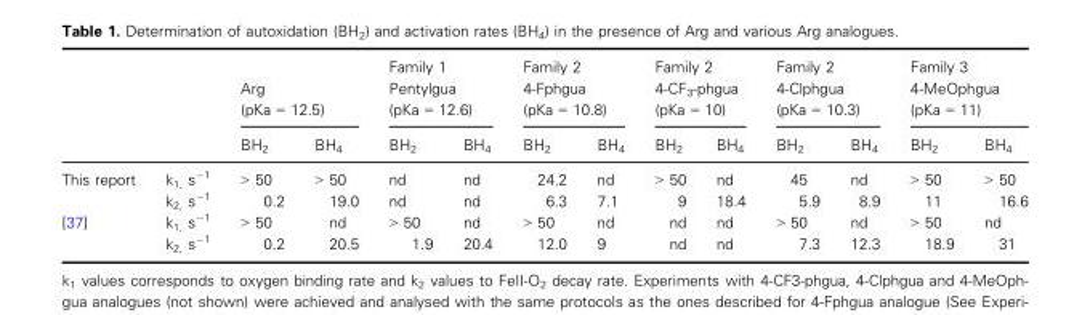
<table><thead><tr><td rowspan="2"></td><td rowspan="2"></td><td colspan="2">Arg (pKa = 12.5)</td><td colspan="2">Family 1 Pentylgua (pKa = 12.6)</td><td colspan="2">Family 2 4-Fphgua (pKa = 10.8)</td><td colspan="2">Family 2 4-CF<sub>3</sub>-phgua (pKa = 10)</td><td colspan="2">Family 2 4-Clphgua (pKa = 10.3)</td><td colspan="2">Family 3 4-MeOphgua (pKa = 11)</td></tr><tr><td>BH<sub>2</sub></td><td>BH<sub>4</sub></td><td>BH<sub>2</sub></td><td>BH<sub>4</sub></td><td>BH<sub>2</sub></td><td>BH<sub>4</sub></td><td>BH<sub>2</sub></td><td>BH<sub>4</sub></td><td>BH<sub>2</sub></td><td>BH<sub>4</sub></td><td>BH<sub>2</sub></td><td>BH<sub>4</sub></td></tr></thead><tbody><tr><td rowspan="2">This report</td><td>k<sub>1,</sub> s<sup>−1</sup></td><td>&gt; 50</td><td>&gt; 50</td><td>nd</td><td>nd</td><td>24.2</td><td>nd</td><td>&gt; 50</td><td>nd</td><td>45</td><td>nd</td><td>&gt; 50</td><td>&gt; 50</td></tr><tr><td>k<sub>2,</sub> s<sup>−1</sup></td><td>0.2</td><td>19.0</td><td>nd</td><td>nd</td><td>6.3</td><td>7.1</td><td>9</td><td>18.4</td><td>5.9</td><td>8.9</td><td>11</td><td>16.6</td></tr><tr><td rowspan="2">[37]</td><td>k<sub>1,</sub> s<sup>−1</sup></td><td>&gt; 50</td><td>nd</td><td>&gt; 50</td><td>nd</td><td>&gt; 50</td><td>nd</td><td>nd</td><td>nd</td><td>&gt; 50</td><td>nd</td><td>&gt; 50</td><td>nd</td></tr><tr><td>k<sub>2,</sub> s<sup>−1</sup></td><td>0.2</td><td>20.5</td><td>1.9</td><td>20.4</td><td>12.0</td><td>9</td><td>nd</td><td>nd</td><td>7.3</td><td>12.3</td><td>18.9</td><td>31</td></tr></tbody></table>